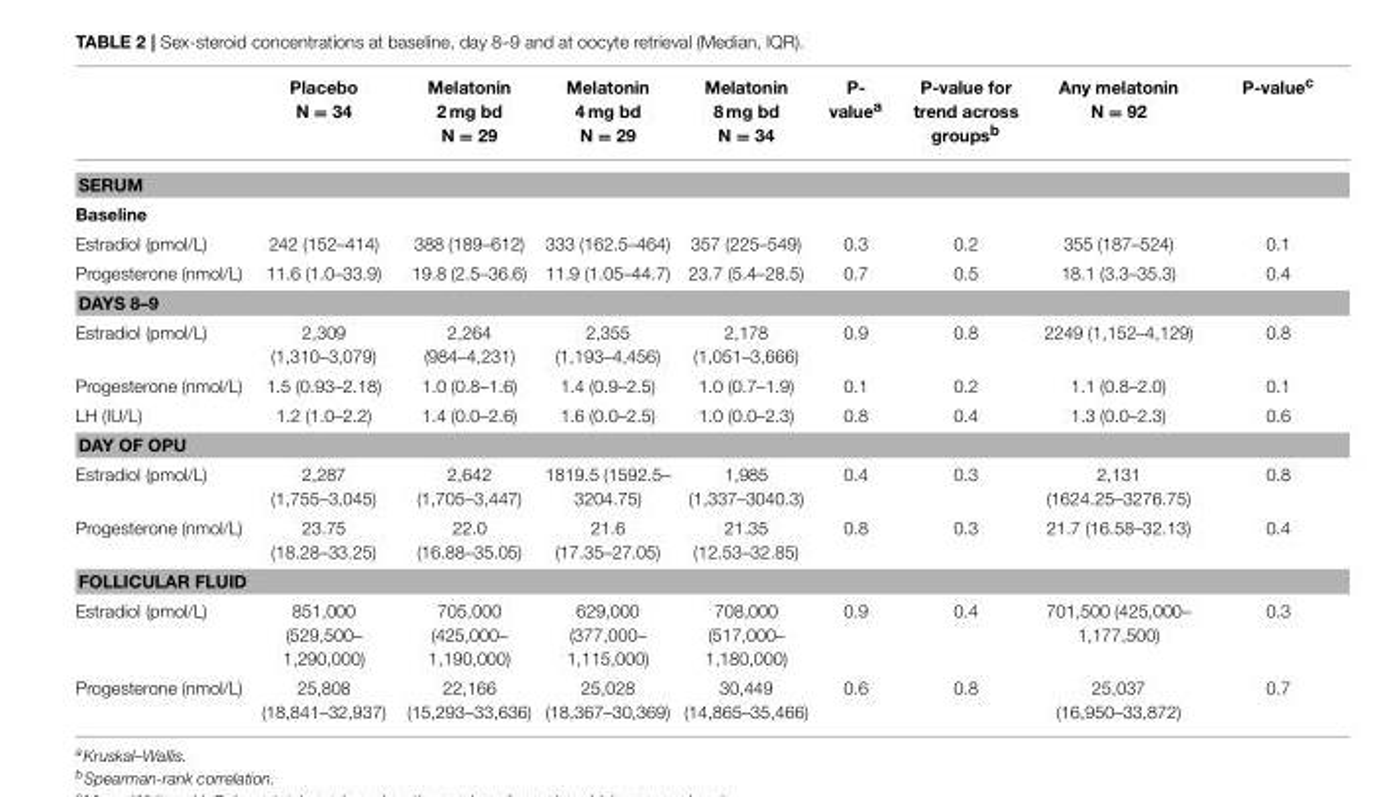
<table><thead><tr><td></td><td>Placebo N = 34</td><td>Melatonin 2 mg bd N = 29</td><td>Melatonin 4 mg bd N = 29</td><td>Melatonin 8 mg bd N = 34</td><td>P- value<sup>a</sup></td><td>P-value for trend across groups<sup>b</sup></td><td>Any melatonin N = 92</td><td>P-value<sup>c</sup></td></tr></thead><tbody><tr><td colspan="9">SERUM</td></tr><tr><td colspan="9">Baseline</td></tr><tr><td>Estradiol (pmol/L)</td><td>242 (152–414)</td><td>388 (189–612)</td><td>333 (162.5–464)</td><td>357 (225–549)</td><td>0.3</td><td>0.2</td><td>355 (187–524)</td><td>0.1</td></tr><tr><td>Progesterone (nmol/L)</td><td>11.6 (1.0–33.9)</td><td>19.8 (2.5–36.6)</td><td>11.9 (1.05–44.7)</td><td>23.7 (5.4–28.5)</td><td>0.7</td><td>0.5</td><td>18.1 (3.3–35.3)</td><td>0.4</td></tr><tr><td colspan="9">DAYS 8–9</td></tr><tr><td>Estradiol (pmol/L)</td><td>2,309 (1,310–3,079)</td><td>2,264 (984–4,231)</td><td>2,355 (1,193–4,456)</td><td>2,178 (1,051–3,666)</td><td>0.9</td><td>0.8</td><td>2249 (1,152–4,129)</td><td>0.8</td></tr><tr><td>Progesterone (nmol/L)</td><td>1.5 (0.93–2.18)</td><td>1.0 (0.8–1.6)</td><td>1.4 (0.9–2.5)</td><td>1.0 (0.7–1.9)</td><td>0.1</td><td>0.2</td><td>1.1 (0.8–2.0)</td><td>0.1</td></tr><tr><td>LH (IU/L)</td><td>1.2 (1.0–2.2)</td><td>1.4 (0.0–2.6)</td><td>1.6 (0.0–2.5)</td><td>1.0 (0.0–2.3)</td><td>0.8</td><td>0.4</td><td>1.3 (0.0–2.3)</td><td>0.6</td></tr><tr><td colspan="9">DAY OF OPU</td></tr><tr><td>Estradiol (pmol/L)</td><td>2,287 (1,755–3,045)</td><td>2,642 (1,705–3,447)</td><td>1819.5 (1592.5– 3204.75)</td><td>1,985 (1,337–3040.3)</td><td>0.4</td><td>0.3</td><td>2,131 (1624.25–3276.75)</td><td>0.8</td></tr><tr><td>Progesterone (nmol/L)</td><td>23.75 (18.28–33.25)</td><td>22.0 (16.88–35.05)</td><td>21.6 (17.35–27.05)</td><td>21.35 (12.53–32.85)</td><td>0.8</td><td>0.3</td><td>21.7 (16.58–32.13)</td><td>0.4</td></tr><tr><td colspan="9">FOLLICULAR FLUID</td></tr><tr><td>Estradiol (pmol/L)</td><td>851,000 (529,500– 1,290,000)</td><td>705,000 (425,000– 1,190,000)</td><td>629,000 (377,000– 1,115,000)</td><td>708,000 (517,000– 1,180,000)</td><td>0.9</td><td>0.4</td><td>701,500 (425,000– 1,177,500)</td><td>0.3</td></tr><tr><td>Progesterone (nmol/L)</td><td>25,808 (18,841–32,937)</td><td>22,166 (15,293–33,636)</td><td>25,028 (18,367–30,369)</td><td>30,449 (14,865–35,466)</td><td>0.6</td><td>0.8</td><td>25,037 (16,950–33,872)</td><td>0.7</td></tr></tbody></table>